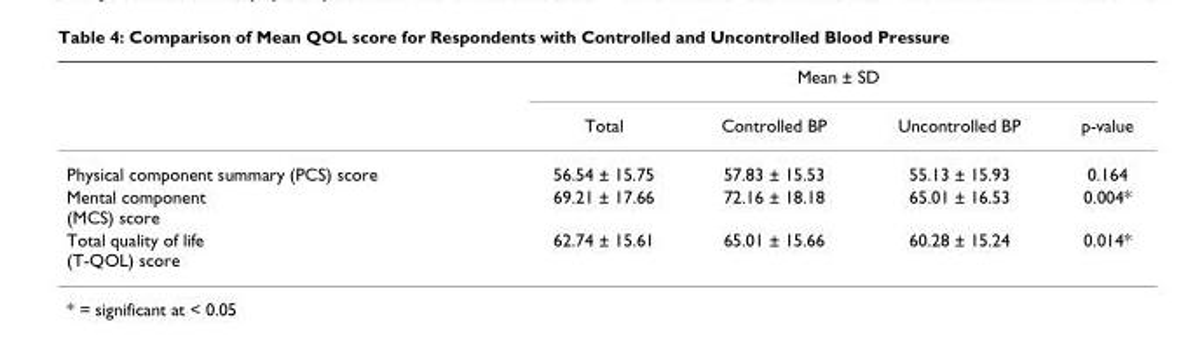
<table><thead><tr><td rowspan="2"></td><td colspan="4">Mean ± SD</td></tr><tr><td>Total</td><td>Controlled BP</td><td>Uncontrolled BP</td><td>p-value</td></tr></thead><tbody><tr><td>Physical component summary (PCS) score</td><td>56.54 ± 15.75</td><td>57.83 ± 15.53</td><td>55.13 ± 15.93</td><td>0.164</td></tr><tr><td>Mental component (MCS) score</td><td>69.21 ± 17.66</td><td>72.16 ± 18.18</td><td>65.01 ± 16.53</td><td>0.004*</td></tr><tr><td>Total quality of life (T-QOL) score</td><td>62.74 ± 15.61</td><td>65.01 ± 15.66</td><td>60.28 ± 15.24</td><td>0.014*</td></tr></tbody></table>